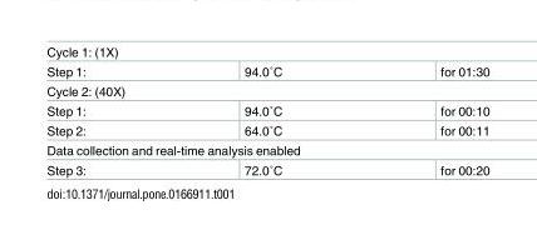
<table><tbody><tr><td colspan="3">Cycle 1: (1X)</td></tr><tr><td>Step 1:</td><td>94.0˚C</td><td>for 01:30</td></tr><tr><td colspan="3">Cycle 2: (40X)</td></tr><tr><td>Step 1:</td><td>94.0˚C</td><td>for 00:10</td></tr><tr><td>Step 2:</td><td>64.0˚C</td><td>for 00:11</td></tr><tr><td colspan="3">Data collection and real-time analysis enabled</td></tr><tr><td>Step 3:</td><td>72.0˚C</td><td>for 00:20</td></tr></tbody></table>